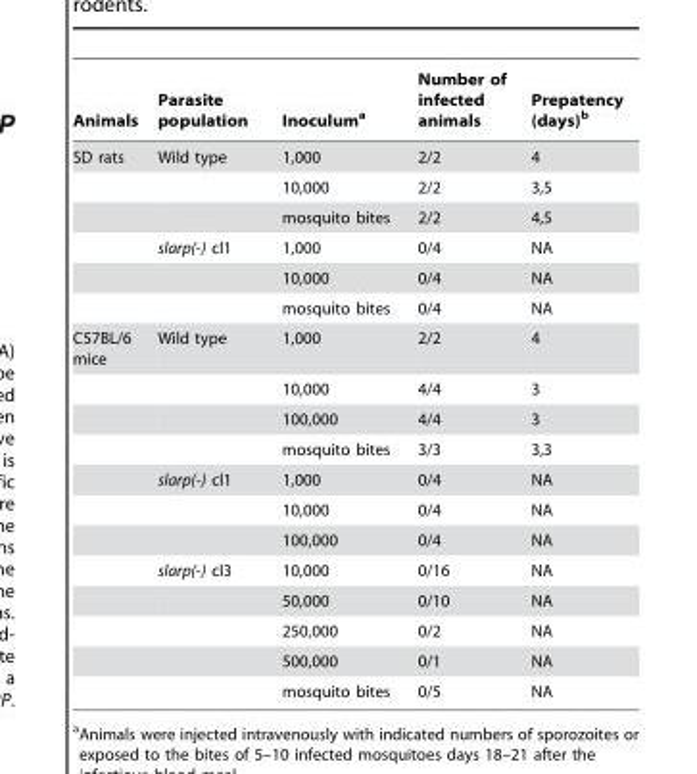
<table><thead><tr><td>Animals</td><td>Parasite population</td><td>Inoculum<sup>a</sup></td><td>Number of infected animals</td><td>Prepatency (days)<sup>b</sup></td></tr></thead><tbody><tr><td rowspan="6">SD rats</td><td>Wild type</td><td>1,000</td><td>2/2</td><td>4</td></tr><tr><td></td><td>10,000</td><td>2/2</td><td>3,5</td></tr><tr><td></td><td>mosquito bites</td><td>2/2</td><td>4,5</td></tr><tr><td>slarp(-) cl1</td><td>1,000</td><td>0/4</td><td>NA</td></tr><tr><td></td><td>10,000</td><td>0/4</td><td>NA</td></tr><tr><td></td><td>mosquito bites</td><td>0/4</td><td>NA</td></tr><tr><td rowspan="12">C57BL/6 mice</td><td>Wild type</td><td>1,000</td><td>2/2</td><td>4</td></tr><tr><td></td><td>10,000</td><td>4/4</td><td>3</td></tr><tr><td></td><td>100,000</td><td>4/4</td><td>3</td></tr><tr><td></td><td>mosquito bites</td><td>3/3</td><td>3,3</td></tr><tr><td>slarp(-) cl1</td><td>1,000</td><td>0/4</td><td>NA</td></tr><tr><td></td><td>10,000</td><td>0/4</td><td>NA</td></tr><tr><td></td><td>100,000</td><td>0/4</td><td>NA</td></tr><tr><td>slarp(-) cl3</td><td>10,000</td><td>0/16</td><td>NA</td></tr><tr><td></td><td>50,000</td><td>0/10</td><td>NA</td></tr><tr><td></td><td>250,000</td><td>0/2</td><td>NA</td></tr><tr><td></td><td>500,000</td><td>0/1</td><td>NA</td></tr><tr><td></td><td>mosquito bites</td><td>0/5</td><td>NA</td></tr></tbody></table>